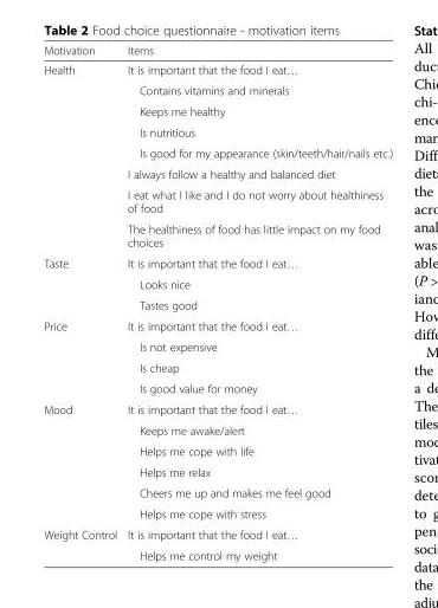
<table><thead><tr><td>Motivation</td><td>Items</td></tr></thead><tbody><tr><td rowspan="8">Health</td><td>It is important that the food I eat…</td></tr><tr><td>Contains vitamins and minerals</td></tr><tr><td>Keeps me healthy</td></tr><tr><td>Is nutritious</td></tr><tr><td>Is good for my appearance (skin/teeth/hair/nails etc.)</td></tr><tr><td>I always follow a healthy and balanced diet</td></tr><tr><td>I eat what I like and I do not worry about healthiness of food</td></tr><tr><td>The healthiness of food has little impact on my food choices</td></tr><tr><td rowspan="3">Taste</td><td>It is important that the food I eat…</td></tr><tr><td>Looks nice</td></tr><tr><td>Tastes good</td></tr><tr><td rowspan="4">Price</td><td>It is important that the food I eat…</td></tr><tr><td>Is not expensive</td></tr><tr><td>Is cheap</td></tr><tr><td>Is good value for money</td></tr><tr><td rowspan="6">Mood</td><td>It is important that the food I eat…</td></tr><tr><td>Keeps me awake/alert</td></tr><tr><td>Helps me cope with life</td></tr><tr><td>Helps me relax</td></tr><tr><td>Cheers me up and makes me feel good</td></tr><tr><td>Helps me cope with stress</td></tr><tr><td rowspan="2">Weight Control</td><td>It is important that the food I eat…</td></tr><tr><td>Helps me control my weight</td></tr></tbody></table>